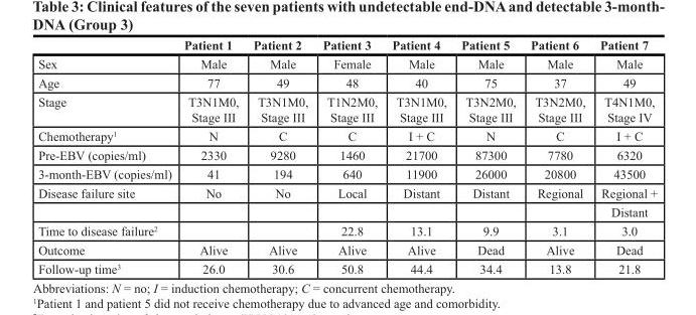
<table><thead><tr><td></td><td>Patient 1</td><td>Patient 2</td><td>Patient 3</td><td>Patient 4</td><td>Patient 5</td><td>Patient 6</td><td>Patient 7</td></tr></thead><tbody><tr><td>Sex</td><td>Male</td><td>Male</td><td>Female</td><td>Male</td><td>Male</td><td>Male</td><td>Male</td></tr><tr><td>Age</td><td>77</td><td>49</td><td>48</td><td>40</td><td>75</td><td>37</td><td>49</td></tr><tr><td>Stage</td><td>T3N1M0, Stage III</td><td>T3N1M0, Stage III</td><td>T1N2M0, Stage III</td><td>T3N1M0, Stage III</td><td>T3N2M0, Stage III</td><td>T3N2M0, Stage III</td><td>T4N1M0, Stage IV</td></tr><tr><td>Chemotherapy<sup>1</sup></td><td>N</td><td>C</td><td>C</td><td>I + C</td><td>N</td><td>C</td><td>I + C</td></tr><tr><td>Pre-EBV (copies/ml)</td><td>2330</td><td>9280</td><td>1460</td><td>21700</td><td>87300</td><td>7780</td><td>6320</td></tr><tr><td>3-month-EBV (copies/ml)</td><td>41</td><td>194</td><td>640</td><td>11900</td><td>26000</td><td>20800</td><td>43500</td></tr><tr><td rowspan="2">Disease failure site</td><td>No</td><td>No</td><td>Local</td><td>Distant</td><td>Distant</td><td>Regional</td><td>Regional +</td></tr><tr><td></td><td></td><td></td><td></td><td></td><td></td><td>Distant</td></tr><tr><td>Time to disease failure<sup>2</sup></td><td></td><td></td><td>22.8</td><td>13.1</td><td>9.9</td><td>3.1</td><td>3.0</td></tr><tr><td>Outcome</td><td>Alive</td><td>Alive</td><td>Alive</td><td>Alive</td><td>Dead</td><td>Alive</td><td>Dead</td></tr><tr><td>Follow-up time<sup>3</sup></td><td>26.0</td><td>30.6</td><td>50.8</td><td>44.4</td><td>34.4</td><td>13.8</td><td>21.8</td></tr></tbody></table>